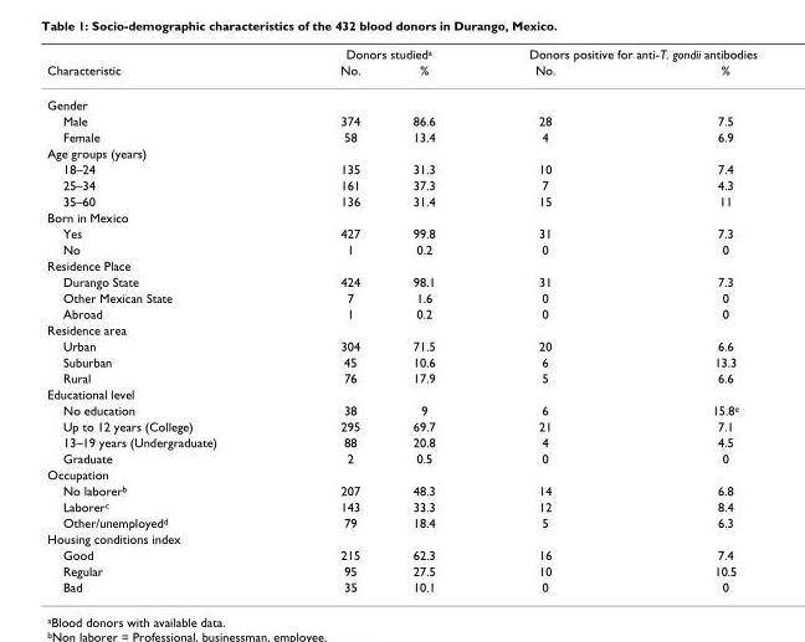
<table><thead><tr><td rowspan="2">Characteristic</td><td colspan="2">Donors studied<sup>a</sup></td><td colspan="2">Donors positive for anti-T. gondii antibodies</td></tr><tr><td>No.</td><td>%</td><td>No.</td><td>%</td></tr></thead><tbody><tr><td colspan="5">Gender</td></tr><tr><td>Male</td><td>374</td><td>86.6</td><td>28</td><td>7.5</td></tr><tr><td>Female</td><td>58</td><td>13.4</td><td>4</td><td>6.9</td></tr><tr><td colspan="5">Age groups (years)</td></tr><tr><td>18–24</td><td>135</td><td>31.3</td><td>10</td><td>7.4</td></tr><tr><td>25–34</td><td>161</td><td>37.3</td><td>7</td><td>4.3</td></tr><tr><td>35–60</td><td>136</td><td>31.4</td><td>15</td><td>11</td></tr><tr><td colspan="5">Born in Mexico</td></tr><tr><td>Yes</td><td>427</td><td>99.8</td><td>31</td><td>7.3</td></tr><tr><td>No</td><td>1</td><td>0.2</td><td>0</td><td>0</td></tr><tr><td colspan="5">Residence Place</td></tr><tr><td>Durango State</td><td>424</td><td>98.1</td><td>31</td><td>7.3</td></tr><tr><td>Other Mexican State</td><td>7</td><td>1.6</td><td>0</td><td>0</td></tr><tr><td>Abroad</td><td>1</td><td>0.2</td><td>0</td><td>0</td></tr><tr><td colspan="5">Residence area</td></tr><tr><td>Urban</td><td>304</td><td>71.5</td><td>20</td><td>6.6</td></tr><tr><td>Suburban</td><td>45</td><td>10.6</td><td>6</td><td>13.3</td></tr><tr><td>Rural</td><td>76</td><td>17.9</td><td>5</td><td>6.6</td></tr><tr><td colspan="5">Educational level</td></tr><tr><td>No education</td><td>38</td><td>9</td><td>6</td><td>15.8<sup>e</sup></td></tr><tr><td>Up to 12 years (College)</td><td>295</td><td>69.7</td><td>21</td><td>7.1</td></tr><tr><td>13–19 years (Undergraduate)</td><td>88</td><td>20.8</td><td>4</td><td>4.5</td></tr><tr><td>Graduate</td><td>2</td><td>0.5</td><td>0</td><td>0</td></tr><tr><td colspan="5">Occupation</td></tr><tr><td>No laborer<sup>b</sup></td><td>207</td><td>48.3</td><td>14</td><td>6.8</td></tr><tr><td>Laborer<sup>c</sup></td><td>143</td><td>33.3</td><td>12</td><td>8.4</td></tr><tr><td>Other/unemployed<sup>d</sup></td><td>79</td><td>18.4</td><td>5</td><td>6.3</td></tr><tr><td colspan="5">Housing conditions index</td></tr><tr><td>Good</td><td>215</td><td>62.3</td><td>16</td><td>7.4</td></tr><tr><td>Regular</td><td>95</td><td>27.5</td><td>10</td><td>10.5</td></tr><tr><td>Bad</td><td>35</td><td>10.1</td><td>0</td><td>0</td></tr></tbody></table>